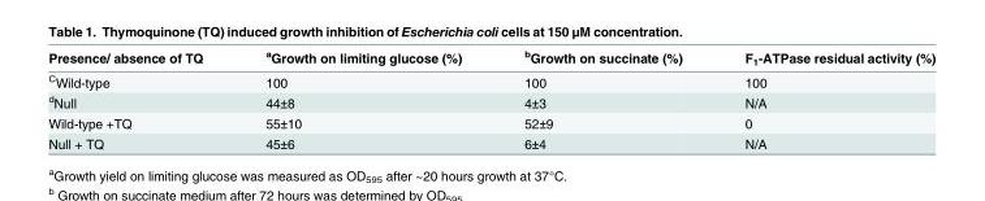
<table><thead><tr><td>Presence/ absence of TQ</td><td><sup>a</sup>Growth on limiting glucose (%)</td><td><sup>b</sup>Growth on succinate (%)</td><td>F<sub>1</sub>-ATPase residual activity (%)</td></tr></thead><tbody><tr><td><sup>C</sup>Wild-type</td><td>100</td><td>100</td><td>100</td></tr><tr><td><sup>d</sup>Null</td><td>44±8</td><td>4±3</td><td>N/A</td></tr><tr><td>Wild-type +TQ</td><td>55±10</td><td>52±9</td><td>0</td></tr><tr><td>Null + TQ</td><td>45±6</td><td>6±4</td><td>N/A</td></tr></tbody></table>